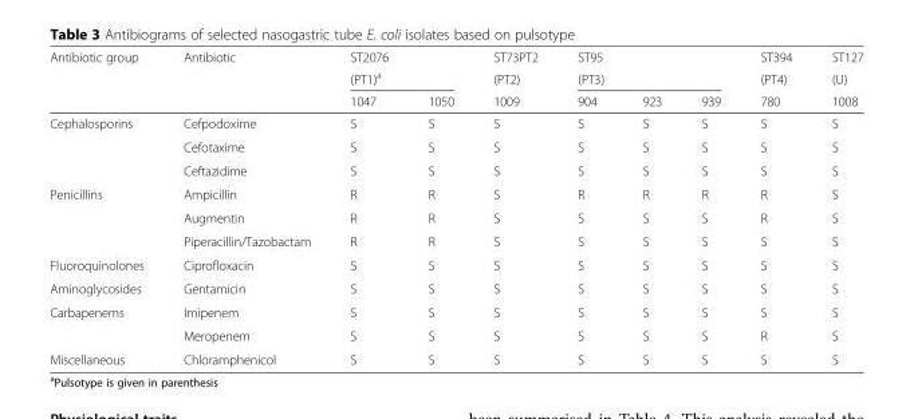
<table><thead><tr><td rowspan="3">Antibiotic group</td><td rowspan="3">Antibiotic</td><td>ST2076</td><td></td><td rowspan="3">ST73PT2 (PT2) 1009</td><td>ST95</td><td></td><td></td><td rowspan="3">ST394 (PT4) 780</td><td rowspan="3">ST127 (U) 1008</td></tr><tr><td colspan="2">(PT1)<sup>a</sup></td><td colspan="3">(PT3)</td></tr><tr><td>1047</td><td>1050</td><td>904</td><td>923</td><td>939</td></tr></thead><tbody><tr><td rowspan="3">Cephalosporins</td><td>Cefpodoxime</td><td>S</td><td>S</td><td>S</td><td>S</td><td>S</td><td>S</td><td>S</td><td>S</td></tr><tr><td>Cefotaxime</td><td>S</td><td>S</td><td>S</td><td>S</td><td>S</td><td>S</td><td>S</td><td>S</td></tr><tr><td>Ceftazidime</td><td>S</td><td>S</td><td>S</td><td>S</td><td>S</td><td>S</td><td>S</td><td>S</td></tr><tr><td rowspan="3">Penicillins</td><td>Ampicillin</td><td>R</td><td>R</td><td>S</td><td>R</td><td>R</td><td>R</td><td>R</td><td>S</td></tr><tr><td>Augmentin</td><td>R</td><td>R</td><td>S</td><td>S</td><td>S</td><td>S</td><td>R</td><td>S</td></tr><tr><td>Piperacillin/Tazobactam</td><td>R</td><td>R</td><td>S</td><td>S</td><td>S</td><td>S</td><td>S</td><td>S</td></tr><tr><td>Fluoroquinolones</td><td>Ciprofloxacin</td><td>S</td><td>S</td><td>S</td><td>S</td><td>S</td><td>S</td><td>S</td><td>S</td></tr><tr><td>Aminoglycosides</td><td>Gentamicin</td><td>S</td><td>S</td><td>S</td><td>S</td><td>S</td><td>S</td><td>S</td><td>S</td></tr><tr><td rowspan="2">Carbapenems</td><td>Imipenem</td><td>S</td><td>S</td><td>S</td><td>S</td><td>S</td><td>S</td><td>S</td><td>S</td></tr><tr><td>Meropenem</td><td>S</td><td>S</td><td>S</td><td>S</td><td>S</td><td>S</td><td>R</td><td>S</td></tr><tr><td>Miscellaneous</td><td>Chloramphenicol</td><td>S</td><td>S</td><td>S</td><td>S</td><td>S</td><td>S</td><td>S</td><td>S</td></tr></tbody></table>